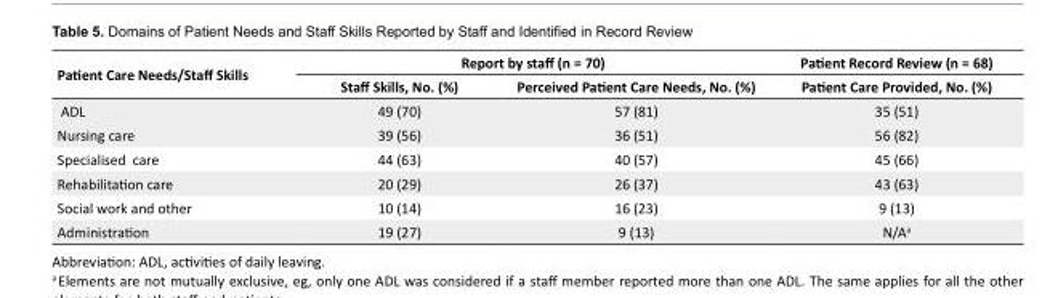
<table><tbody><tr><td rowspan="2">Patient Care Needs/Staff Skills</td><td colspan="2">Report by staff (n = 70)</td><td>Patient Record Review (n = 68)</td></tr><tr><td>Staff Skills, No. (%)</td><td>Perceived Patient Care Needs, No. (%)</td><td>Patient Care Provided, No. (%)</td></tr><tr><td>ADL</td><td>49 (70)</td><td>57 (81)</td><td>35 (51)</td></tr><tr><td>Nursing care</td><td>39 (56)</td><td>36 (51)</td><td>56 (82)</td></tr><tr><td>Specialised care</td><td>44 (63)</td><td>40 (57)</td><td>45 (66)</td></tr><tr><td>Rehabilitation care</td><td>20 (29)</td><td>26 (37)</td><td>43 (63)</td></tr><tr><td>Social work and other</td><td>10 (14)</td><td>16 (23)</td><td>9 (13)</td></tr><tr><td>Administration</td><td>19 (27)</td><td>9 (13)</td><td>N/A<sup>a</sup></td></tr></tbody></table>